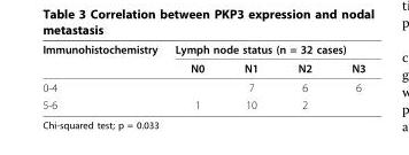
<table><thead><tr><td rowspan="2">Immunohistochemistry</td><td colspan="4">Lymph node status (n = 32 cases)</td></tr><tr><td>N0</td><td>N1</td><td>N2</td><td>N3</td></tr></thead><tbody><tr><td>0-4</td><td></td><td>7</td><td>6</td><td>6</td></tr><tr><td>5-6</td><td>1</td><td>10</td><td>2</td><td></td></tr></tbody></table>